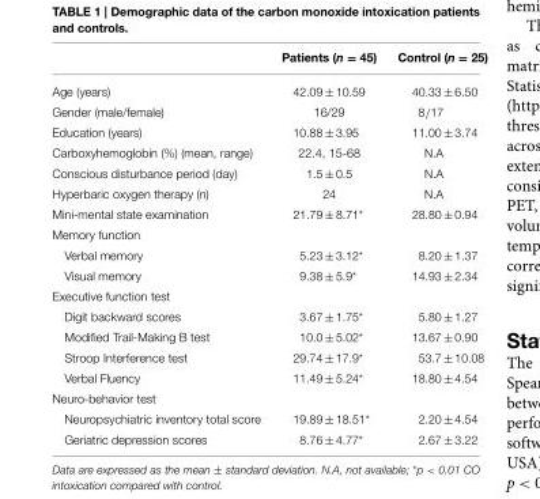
<table><thead><tr><td></td><td>Patients (n = 45)</td><td>Control (n = 25)</td></tr></thead><tbody><tr><td>Age (years)</td><td>42.09 ± 10.59</td><td>40.33 ± 6.50</td></tr><tr><td>Gender (male/female)</td><td>16/29</td><td>8/17</td></tr><tr><td>Education (years)</td><td>10.88 ± 3.95</td><td>11.00 ± 3.74</td></tr><tr><td>Carboxyhemoglobin (%) (mean, range)</td><td>22.4, 15-68</td><td>N.A</td></tr><tr><td>Conscious disturbance period (day)</td><td>1.5 ± 0.5</td><td>N.A</td></tr><tr><td>Hyperbaric oxygen therapy (n)</td><td>24</td><td>N.A</td></tr><tr><td>Mini-mental state examination</td><td>21.79 ± 8.71*</td><td>28.80 ± 0.94</td></tr><tr><td colspan="3">Memory function</td></tr><tr><td>Verbal memory</td><td>5.23 ± 3.12*</td><td>8.20 ± 1.37</td></tr><tr><td>Visual memory</td><td>9.38 ± 5.9*</td><td>14.93 ± 2.34</td></tr><tr><td colspan="3">Executive function test</td></tr><tr><td>Digit backward scores</td><td>3.67 ± 1.75*</td><td>5.80 ± 1.27</td></tr><tr><td>Modified Trail-Making B test</td><td>10.0 ± 5.02*</td><td>13.67 ± 0.90</td></tr><tr><td>Stroop Interference test</td><td>29.74 ± 17.9*</td><td>53.7 ± 10.08</td></tr><tr><td>Verbal Fluency</td><td>11.49 ± 5.24*</td><td>18.80 ± 4.54</td></tr><tr><td colspan="3">Neuro-behavior test</td></tr><tr><td>Neuropsychiatric inventory total score</td><td>19.89 ± 18.51*</td><td>2.20 ± 4.54</td></tr><tr><td>Geriatric depression scores</td><td>8.76 ± 4.77*</td><td>2.67 ± 3.22</td></tr></tbody></table>